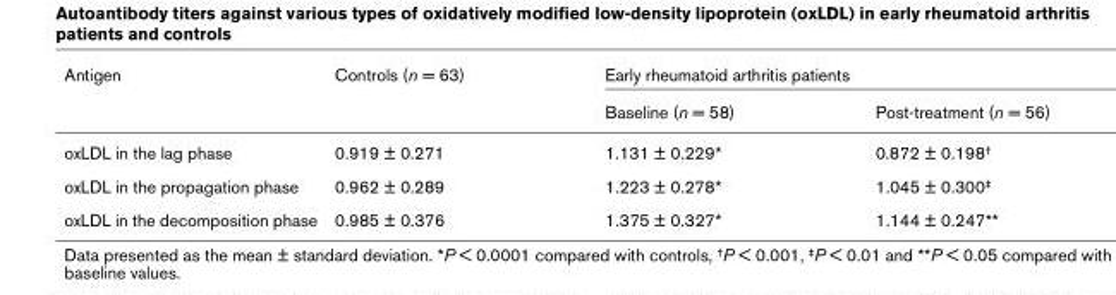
<table><thead><tr><td rowspan="2">Antigen</td><td rowspan="2">Controls (n = 63)</td><td colspan="2">Early rheumatoid arthritis patients</td></tr><tr><td>Baseline (n = 58)</td><td>Post-treatment (n = 56)</td></tr></thead><tbody><tr><td>oxLDL in the lag phase</td><td>0.919 ± 0.271</td><td>1.131 ± 0.229*</td><td>0.872 ± 0.198†</td></tr><tr><td>oxLDL in the propagation phase</td><td>0.962 ± 0.289</td><td>1.223 ± 0.278*</td><td>1.045 ± 0.300‡</td></tr><tr><td>oxLDL in the decomposition phase</td><td>0.985 ± 0.376</td><td>1.375 ± 0.327*</td><td>1.144 ± 0.247**</td></tr></tbody></table>